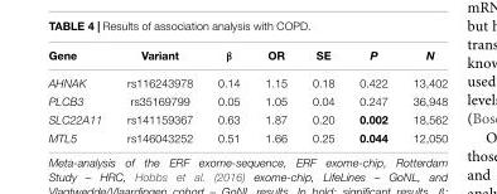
<table><thead><tr><td>Gene</td><td>Variant</td><td>β</td><td>OR</td><td>SE</td><td>P</td><td>N</td></tr></thead><tbody><tr><td>AHNAK</td><td>rs116243978</td><td>0.14</td><td>1.15</td><td>0.18</td><td>0.422</td><td>13,402</td></tr><tr><td>PLCB3</td><td>rs35169799</td><td>0.05</td><td>1.05</td><td>0.04</td><td>0.247</td><td>36,948</td></tr><tr><td>SLC22A11</td><td>rs141159367</td><td>0.63</td><td>1.87</td><td>0.20</td><td>0.002</td><td>18,562</td></tr><tr><td>MTL5</td><td>rs146043252</td><td>0.51</td><td>1.66</td><td>0.25</td><td>0.044</td><td>12,050</td></tr></tbody></table>